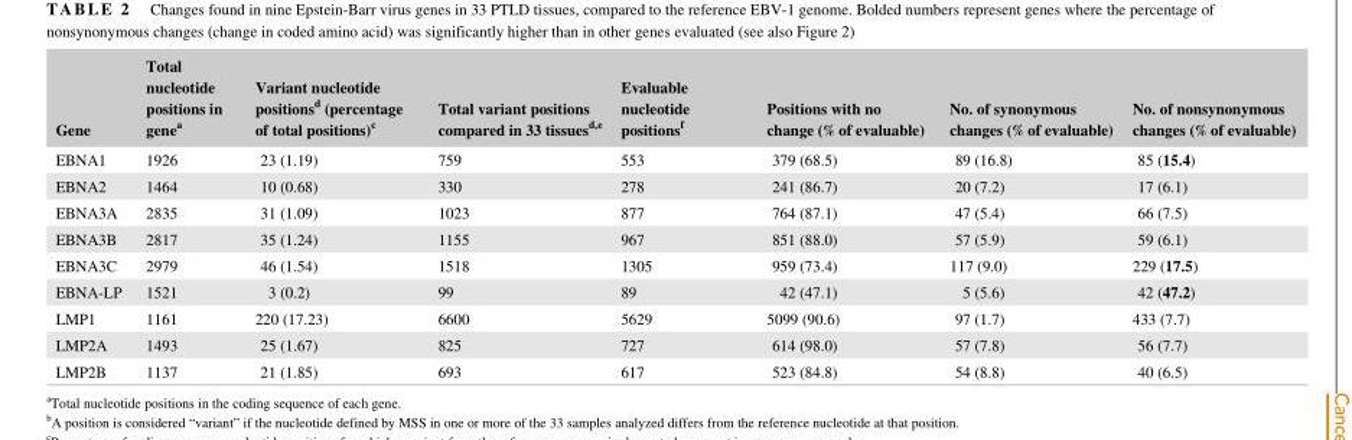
<table><thead><tr><td>Gene</td><td>Total nucleotide positions in gene<sup>a</sup></td><td>Variant nucleotide positionsd (percentage of total positions)c</td><td>Total variant positions compared in 33 tissues<sup>d,</sup>e</td><td>Evaluable nucleotide positionsf</td><td>Positions with no change (% of evaluable)</td><td>No. of synonymous changes (% of evaluable)</td><td>No. of nonsynonymous changes (% of evaluable)</td></tr></thead><tbody><tr><td>EBNA1</td><td>1926</td><td>23 (1.19)</td><td>759</td><td>553</td><td>379 (68.5)</td><td>89 (16.8)</td><td>85 (15.4)</td></tr><tr><td>EBNA2</td><td>1464</td><td>10 (0.68)</td><td>330</td><td>278</td><td>241 (86.7)</td><td>20 (7.2)</td><td>17 (6.1)</td></tr><tr><td>EBNA3A</td><td>2835</td><td>31 (1.09)</td><td>1023</td><td>877</td><td>764 (87.1)</td><td>47 (5.4)</td><td>66 (7.5)</td></tr><tr><td>EBNA3B</td><td>2817</td><td>35 (1.24)</td><td>1155</td><td>967</td><td>851 (88.0)</td><td>57 (5.9)</td><td>59 (6.1)</td></tr><tr><td>EBNA3C</td><td>2979</td><td>46 (1.54)</td><td>1518</td><td>1305</td><td>959 (73.4)</td><td>117 (9.0)</td><td>229 (17.5)</td></tr><tr><td>EBNA‐LP</td><td>1521</td><td>3 (0.2)</td><td>99</td><td>89</td><td>42 (47.1)</td><td>5 (5.6)</td><td>42 (47.2)</td></tr><tr><td>LMP1</td><td>1161</td><td>220 (17.23)</td><td>6600</td><td>5629</td><td>5099 (90.6)</td><td>97 (1.7)</td><td>433 (7.7)</td></tr><tr><td>LMP2A</td><td>1493</td><td>25 (1.67)</td><td>825</td><td>727</td><td>614 (98.0)</td><td>57 (7.8)</td><td>56 (7.7)</td></tr><tr><td>LMP2B</td><td>1137</td><td>21 (1.85)</td><td>693</td><td>617</td><td>523 (84.8)</td><td>54 (8.8)</td><td>40 (6.5)</td></tr></tbody></table>